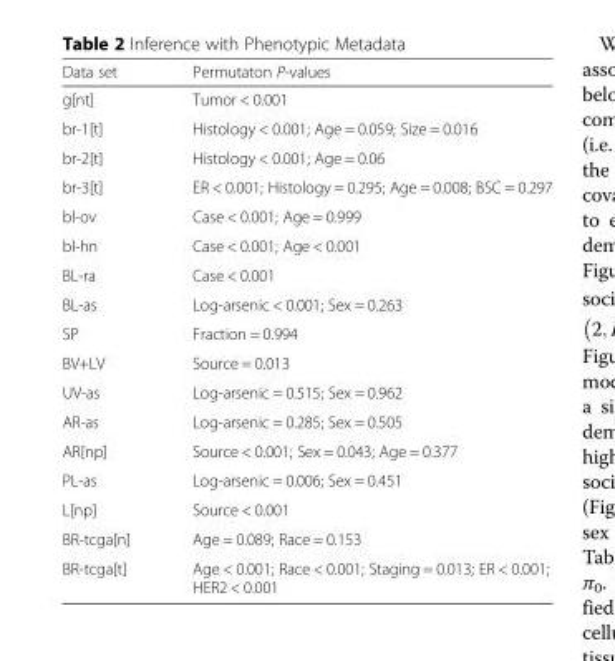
<table><thead><tr><td>Data set</td><td>Permutaton P-values</td></tr></thead><tbody><tr><td>g[nt]</td><td>Tumor &lt; 0.001</td></tr><tr><td>br-1[t]</td><td>Histology &lt; 0.001; Age = 0.059; Size = 0.016</td></tr><tr><td>br-2[t]</td><td>Histology &lt; 0.001; Age = 0.06</td></tr><tr><td>br-3[t]</td><td>ER &lt; 0.001; Histology = 0.295; Age = 0.008; BSC = 0.297</td></tr><tr><td>bl-ov</td><td>Case &lt; 0.001; Age = 0.999</td></tr><tr><td>bl-hn</td><td>Case &lt; 0.001; Age &lt; 0.001</td></tr><tr><td>BL-ra</td><td>Case &lt; 0.001</td></tr><tr><td>BL-as</td><td>Log-arsenic &lt; 0.001; Sex = 0.263</td></tr><tr><td>SP</td><td>Fraction = 0.994</td></tr><tr><td>BV+LV</td><td>Source = 0.013</td></tr><tr><td>UV-as</td><td>Log-arsenic = 0.515; Sex = 0.962</td></tr><tr><td>AR-as</td><td>Log-arsenic = 0.285; Sex = 0.505</td></tr><tr><td>AR[np]</td><td>Source &lt; 0.001; Sex = 0.043; Age = 0.377</td></tr><tr><td>PL-as</td><td>Log-arsenic = 0.006; Sex = 0.451</td></tr><tr><td>L[np]</td><td>Source &lt; 0.001</td></tr><tr><td>BR-tcga[n]</td><td>Age = 0.089; Race = 0.153</td></tr><tr><td>BR-tcga[t]</td><td>Age &lt; 0.001; Race &lt; 0.001; Staging = 0.013; ER &lt; 0.001; HER2 &lt; 0.001</td></tr></tbody></table>